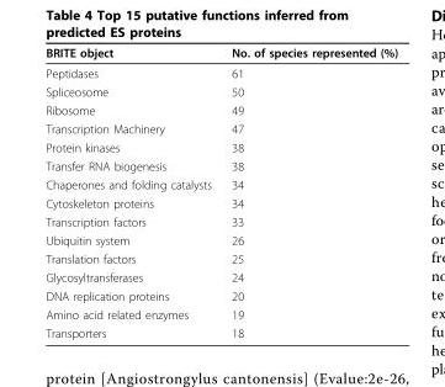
<table><thead><tr><td>BRITE object</td><td>No. of species represented (%)</td></tr></thead><tbody><tr><td>Peptidases</td><td>61</td></tr><tr><td>Spliceosome</td><td>50</td></tr><tr><td>Ribosome</td><td>49</td></tr><tr><td>Transcription Machinery</td><td>47</td></tr><tr><td>Protein kinases</td><td>38</td></tr><tr><td>Transfer RNA biogenesis</td><td>38</td></tr><tr><td>Chaperones and folding catalysts</td><td>34</td></tr><tr><td>Cytoskeleton proteins</td><td>34</td></tr><tr><td>Transcription factors</td><td>33</td></tr><tr><td>Ubiquitin system</td><td>26</td></tr><tr><td>Translation factors</td><td>25</td></tr><tr><td>Glycosyltransferases</td><td>24</td></tr><tr><td>DNA replication proteins</td><td>20</td></tr><tr><td>Amino acid related enzymes</td><td>19</td></tr><tr><td>Transporters</td><td>18</td></tr></tbody></table>